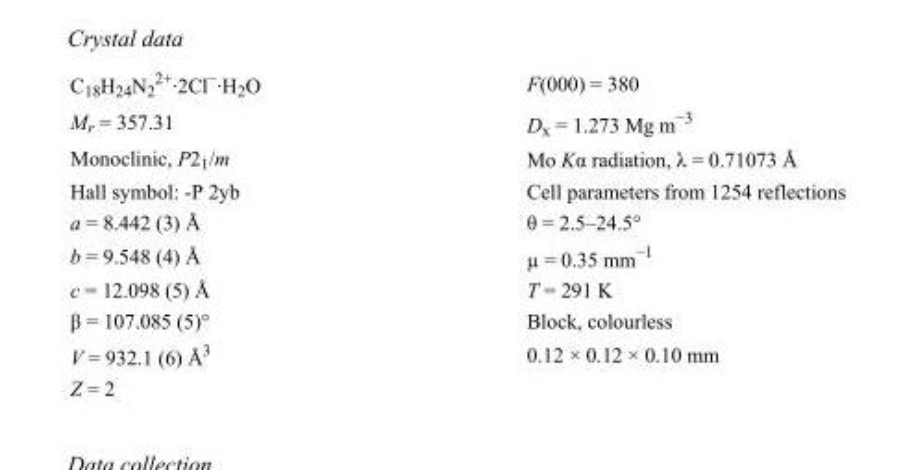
<table><tbody><tr><td>C<sub>18</sub>H<sub>24</sub>N<sub>2</sub> <sup>2+</sup>·2Cl<sup>−</sup>·H<sub>2</sub>O</td><td>F(000) = 380</td></tr><tr><td>M<sub>r</sub> = 357.31</td><td>D<sub>x</sub> = 1.273 Mg m<sup>−3</sup></td></tr><tr><td>Monoclinic, P2<sub>1</sub>/m</td><td>Mo Kα radiation, λ = 0.71073 Å</td></tr><tr><td>Hall symbol: -P 2yb</td><td>Cell parameters from 1254 reflections</td></tr><tr><td>a = 8.442 (3) Å</td><td>θ = 2.5–24.5°</td></tr><tr><td>b = 9.548 (4) Å</td><td>µ = 0.35 mm<sup>−1</sup></td></tr><tr><td>c = 12.098 (5) Å</td><td>T = 291 K</td></tr><tr><td>β = 107.085 (5)°</td><td>Block, colourless</td></tr><tr><td>V = 932.1 (6) Å<sup>3</sup></td><td>0.12 × 0.12 × 0.10 mm</td></tr><tr><td>Z = 2</td><td></td></tr></tbody></table>